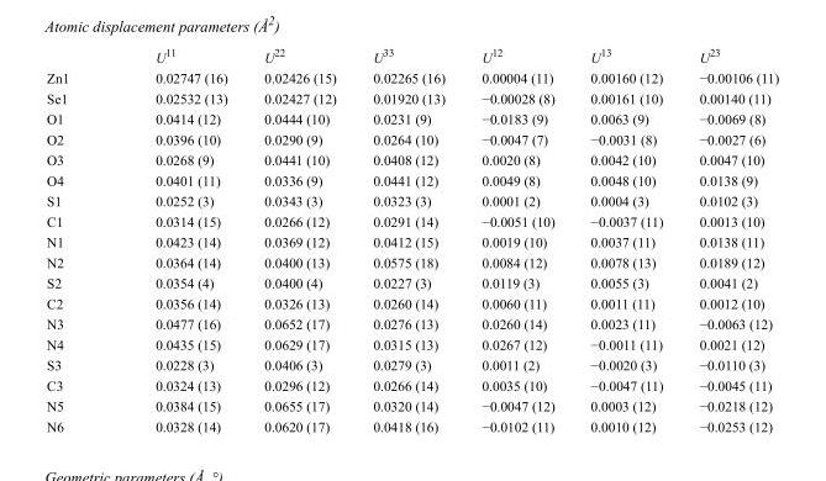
<table><thead><tr><td></td><td>U<sup>11</sup></td><td>U<sup>22</sup></td><td>U<sup>33</sup></td><td>U<sup>12</sup></td><td>U<sup>13</sup></td><td>U<sup>23</sup></td></tr></thead><tbody><tr><td>Zn1</td><td>0.02747 (16)</td><td>0.02426 (15)</td><td>0.02265 (16)</td><td>0.00004 (11)</td><td>0.00160 (12)</td><td>−0.00106 (11)</td></tr><tr><td>Se1</td><td>0.02532 (13)</td><td>0.02427 (12)</td><td>0.01920 (13)</td><td>−0.00028 (8)</td><td>0.00161 (10)</td><td>0.00140 (11)</td></tr><tr><td>O1</td><td>0.0414 (12)</td><td>0.0444 (10)</td><td>0.0231 (9)</td><td>−0.0183 (9)</td><td>0.0063 (9)</td><td>−0.0069 (8)</td></tr><tr><td>O2</td><td>0.0396 (10)</td><td>0.0290 (9)</td><td>0.0264 (10)</td><td>−0.0047 (7)</td><td>−0.0031 (8)</td><td>−0.0027 (6)</td></tr><tr><td>O3</td><td>0.0268 (9)</td><td>0.0441 (10)</td><td>0.0408 (12)</td><td>0.0020 (8)</td><td>0.0042 (10)</td><td>0.0047 (10)</td></tr><tr><td>O4</td><td>0.0401 (11)</td><td>0.0336 (9)</td><td>0.0441 (12)</td><td>0.0049 (8)</td><td>0.0048 (10)</td><td>0.0138 (9)</td></tr><tr><td>S1</td><td>0.0252 (3)</td><td>0.0343 (3)</td><td>0.0323 (3)</td><td>0.0001 (2)</td><td>0.0004 (3)</td><td>0.0102 (3)</td></tr><tr><td>C1</td><td>0.0314 (15)</td><td>0.0266 (12)</td><td>0.0291 (14)</td><td>−0.0051 (10)</td><td>−0.0037 (11)</td><td>0.0013 (10)</td></tr><tr><td>N1</td><td>0.0423 (14)</td><td>0.0369 (12)</td><td>0.0412 (15)</td><td>0.0019 (10)</td><td>0.0037 (11)</td><td>0.0138 (11)</td></tr><tr><td>N2</td><td>0.0364 (14)</td><td>0.0400 (13)</td><td>0.0575 (18)</td><td>0.0084 (12)</td><td>0.0078 (13)</td><td>0.0189 (12)</td></tr><tr><td>S2</td><td>0.0354 (4)</td><td>0.0400 (4)</td><td>0.0227 (3)</td><td>0.0119 (3)</td><td>0.0055 (3)</td><td>0.0041 (2)</td></tr><tr><td>C2</td><td>0.0356 (14)</td><td>0.0326 (13)</td><td>0.0260 (14)</td><td>0.0060 (11)</td><td>0.0011 (11)</td><td>0.0012 (10)</td></tr><tr><td>N3</td><td>0.0477 (16)</td><td>0.0652 (17)</td><td>0.0276 (13)</td><td>0.0260 (14)</td><td>0.0023 (11)</td><td>−0.0063 (12)</td></tr><tr><td>N4</td><td>0.0435 (15)</td><td>0.0629 (17)</td><td>0.0315 (13)</td><td>0.0267 (12)</td><td>−0.0011 (11)</td><td>0.0021 (12)</td></tr><tr><td>S3</td><td>0.0228 (3)</td><td>0.0406 (3)</td><td>0.0279 (3)</td><td>0.0011 (2)</td><td>−0.0020 (3)</td><td>−0.0110 (3)</td></tr><tr><td>C3</td><td>0.0324 (13)</td><td>0.0296 (12)</td><td>0.0266 (14)</td><td>0.0035 (10)</td><td>−0.0047 (11)</td><td>−0.0045 (11)</td></tr><tr><td>N5</td><td>0.0384 (15)</td><td>0.0655 (17)</td><td>0.0320 (14)</td><td>−0.0047 (12)</td><td>0.0003 (12)</td><td>−0.0218 (12)</td></tr><tr><td>N6</td><td>0.0328 (14)</td><td>0.0620 (17)</td><td>0.0418 (16)</td><td>−0.0102 (11)</td><td>0.0010 (12)</td><td>−0.0253 (12)</td></tr></tbody></table>